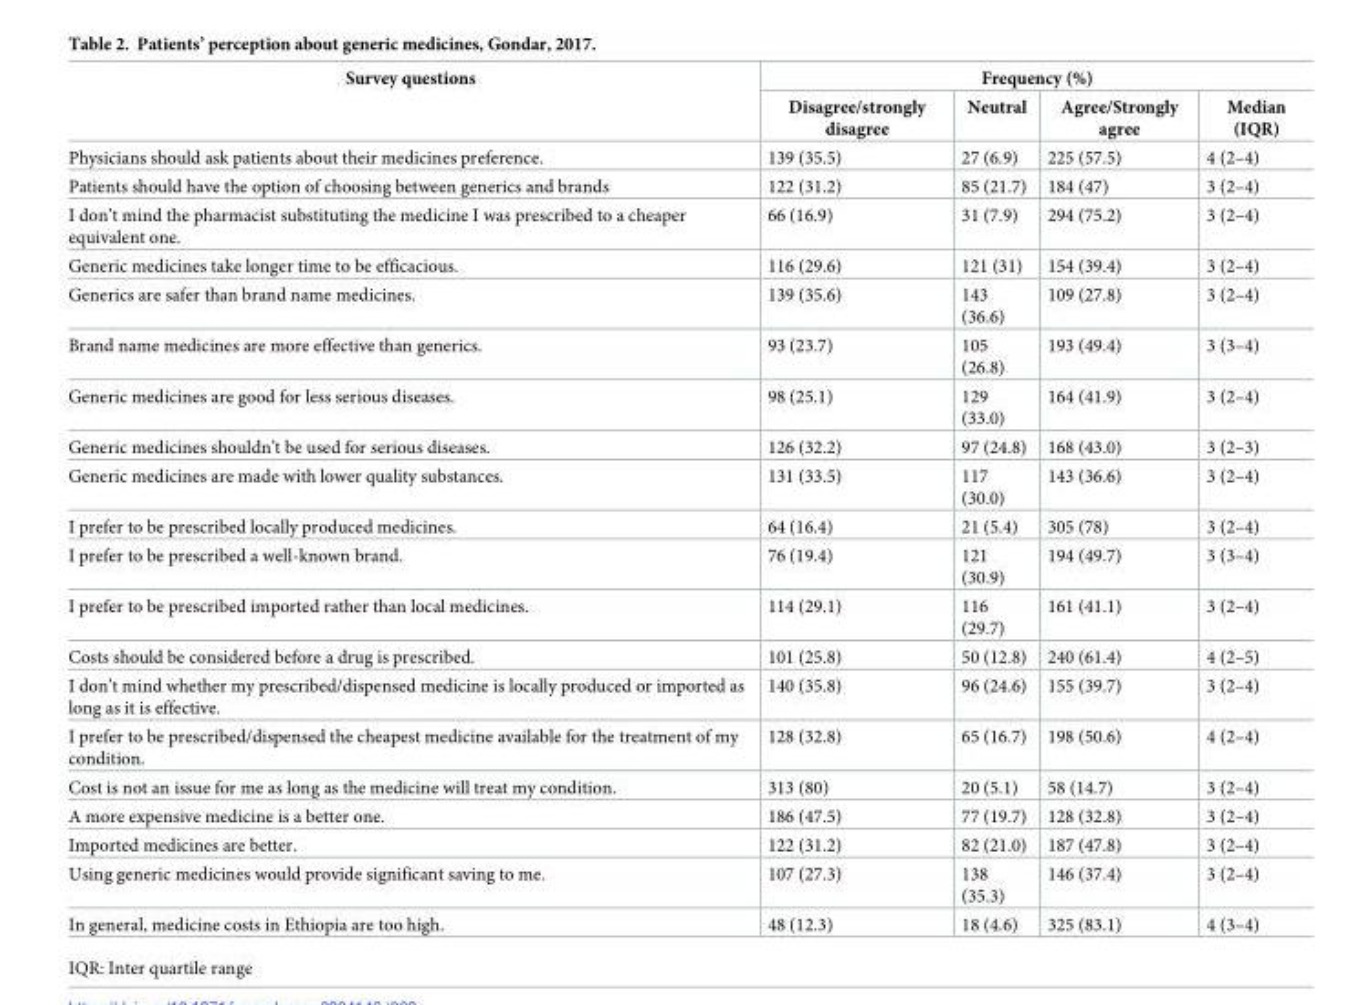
<table><thead><tr><td rowspan="2">Survey questions</td><td colspan="4">Frequency (%)</td></tr><tr><td>Disagree/strongly disagree</td><td>Neutral</td><td>Agree/Strongly agree</td><td>Median (IQR)</td></tr></thead><tbody><tr><td>Physicians should ask patients about their medicines preference.</td><td>139 (35.5)</td><td>27 (6.9)</td><td>225 (57.5)</td><td>4 (2–4)</td></tr><tr><td>Patients should have the option of choosing between generics and brands</td><td>122 (31.2)</td><td>85 (21.7)</td><td>184 (47)</td><td>3 (2–4)</td></tr><tr><td>I don’t mind the pharmacist substituting the medicine I was prescribed to a cheaper equivalent one.</td><td>66 (16.9)</td><td>31 (7.9)</td><td>294 (75.2)</td><td>3 (2–4)</td></tr><tr><td>Generic medicines take longer time to be efficacious.</td><td>116 (29.6)</td><td>121 (31)</td><td>154 (39.4)</td><td>3 (2–4)</td></tr><tr><td>Generics are safer than brand name medicines.</td><td>139 (35.6)</td><td>143 (36.6)</td><td>109 (27.8)</td><td>3 (2–4)</td></tr><tr><td>Brand name medicines are more effective than generics.</td><td>93 (23.7)</td><td>105 (26.8)</td><td>193 (49.4)</td><td>3 (3–4)</td></tr><tr><td>Generic medicines are good for less serious diseases.</td><td>98 (25.1)</td><td>129 (33.0)</td><td>164 (41.9)</td><td>3 (2–4)</td></tr><tr><td>Generic medicines shouldn’t be used for serious diseases.</td><td>126 (32.2)</td><td>97 (24.8)</td><td>168 (43.0)</td><td>3 (2–3)</td></tr><tr><td>Generic medicines are made with lower quality substances.</td><td>131 (33.5)</td><td>117 (30.0)</td><td>143 (36.6)</td><td>3 (2–4)</td></tr><tr><td>I prefer to be prescribed locally produced medicines.</td><td>64 (16.4)</td><td>21 (5.4)</td><td>305 (78)</td><td>3 (2–4)</td></tr><tr><td>I prefer to be prescribed a well-known brand.</td><td>76 (19.4)</td><td>121 (30.9)</td><td>194 (49.7)</td><td>3 (3–4)</td></tr><tr><td>I prefer to be prescribed imported rather than local medicines.</td><td>114 (29.1)</td><td>116 (29.7)</td><td>161 (41.1)</td><td>3 (2–4)</td></tr><tr><td>Costs should be considered before a drug is prescribed.</td><td>101 (25.8)</td><td>50 (12.8)</td><td>240 (61.4)</td><td>4 (2–5)</td></tr><tr><td>I don’t mind whether my prescribed/dispensed medicine is locally produced or imported as long as it is effective.</td><td>140 (35.8)</td><td>96 (24.6)</td><td>155 (39.7)</td><td>3 (2–4)</td></tr><tr><td>I prefer to be prescribed/dispensed the cheapest medicine available for the treatment of my condition.</td><td>128 (32.8)</td><td>65 (16.7)</td><td>198 (50.6)</td><td>4 (2–4)</td></tr><tr><td>Cost is not an issue for me as long as the medicine will treat my condition.</td><td>313 (80)</td><td>20 (5.1)</td><td>58 (14.7)</td><td>3 (2–4)</td></tr><tr><td>A more expensive medicine is a better one.</td><td>186 (47.5)</td><td>77 (19.7)</td><td>128 (32.8)</td><td>3 (2–4)</td></tr><tr><td>Imported medicines are better.</td><td>122 (31.2)</td><td>82 (21.0)</td><td>187 (47.8)</td><td>3 (2–4)</td></tr><tr><td>Using generic medicines would provide significant saving to me.</td><td>107 (27.3)</td><td>138 (35.3)</td><td>146 (37.4)</td><td>3 (2–4)</td></tr><tr><td>In general, medicine costs in Ethiopia are too high.</td><td>48 (12.3)</td><td>18 (4.6)</td><td>325 (83.1)</td><td>4 (3–4)</td></tr></tbody></table>